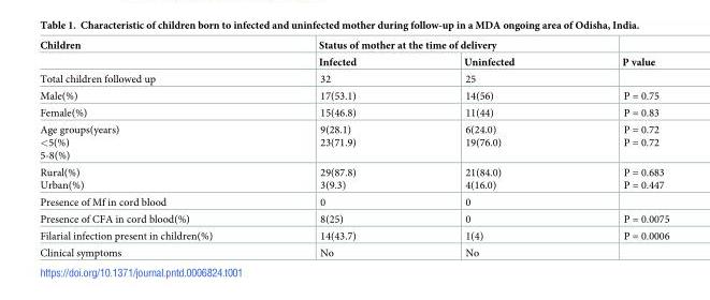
<table><thead><tr><td rowspan="2">Children</td><td colspan="2">Status of mother at the time of delivery</td><td rowspan="2">P value</td></tr><tr><td>Infected</td><td>Uninfected</td></tr></thead><tbody><tr><td>Total children followed up</td><td>32</td><td>25</td><td></td></tr><tr><td>Male(%)</td><td>17(53.1)</td><td>14(56)</td><td>P = 0.75</td></tr><tr><td>Female(%)</td><td>15(46.8)</td><td>11(44)</td><td>P = 0.83</td></tr><tr><td>Age groups(years) &lt;5(%) 5-8(%)</td><td>9(28.1) 23(71.9)</td><td>6(24.0) 19(76.0)</td><td>P = 0.72 P = 0.72</td></tr><tr><td>Rural(%) Urban(%)</td><td>29(87.8) 3(9.3)</td><td>21(84.0) 4(16.0)</td><td>P = 0.683 P = 0.447</td></tr><tr><td>Presence of Mf in cord blood</td><td>0</td><td>0</td><td></td></tr><tr><td>Presence of CFA in cord blood(%)</td><td>8(25)</td><td>0</td><td>P = 0.0075</td></tr><tr><td>Filarial infection present in children(%)</td><td>14(43.7)</td><td>1(4)</td><td>P = 0.0006</td></tr><tr><td>Clinical symptoms</td><td>No</td><td>No</td><td></td></tr></tbody></table>